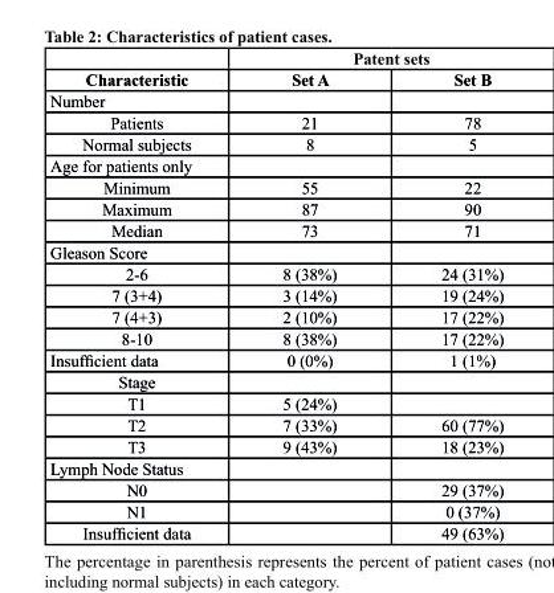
<table><thead><tr><td rowspan="2">characteristic</td><td colspan="2">Patent sets</td></tr><tr><td>set A</td><td>set b</td></tr></thead><tbody><tr><td colspan="3">Number</td></tr><tr><td>Patients</td><td>21</td><td>78</td></tr><tr><td>Normal subjects</td><td>8</td><td>5</td></tr><tr><td colspan="3">Age for patients only</td></tr><tr><td>Minimum</td><td>55</td><td>22</td></tr><tr><td>Maximum</td><td>87</td><td>90</td></tr><tr><td>Median</td><td>73</td><td>71</td></tr><tr><td colspan="3">Gleason Score</td></tr><tr><td>2-6</td><td>8 (38%)</td><td>24 (31%)</td></tr><tr><td>7 (3+4)</td><td>3 (14%)</td><td>19 (24%)</td></tr><tr><td>7 (4+3)</td><td>2 (10%)</td><td>17 (22%)</td></tr><tr><td>8-10</td><td>8 (38%)</td><td>17 (22%)</td></tr><tr><td>Insufficient data</td><td>0 (0%)</td><td>1 (1%)</td></tr><tr><td colspan="3">Stage</td></tr><tr><td>T1</td><td>5 (24%)</td><td></td></tr><tr><td>T2</td><td>7 (33%)</td><td>60 (77%)</td></tr><tr><td>T3</td><td>9 (43%)</td><td>18 (23%)</td></tr><tr><td colspan="3">Lymph Node Status</td></tr><tr><td>N0</td><td></td><td>29 (37%)</td></tr><tr><td>N1</td><td></td><td>0 (37%)</td></tr><tr><td>Insufficient data</td><td></td><td>49 (63%)</td></tr></tbody></table>